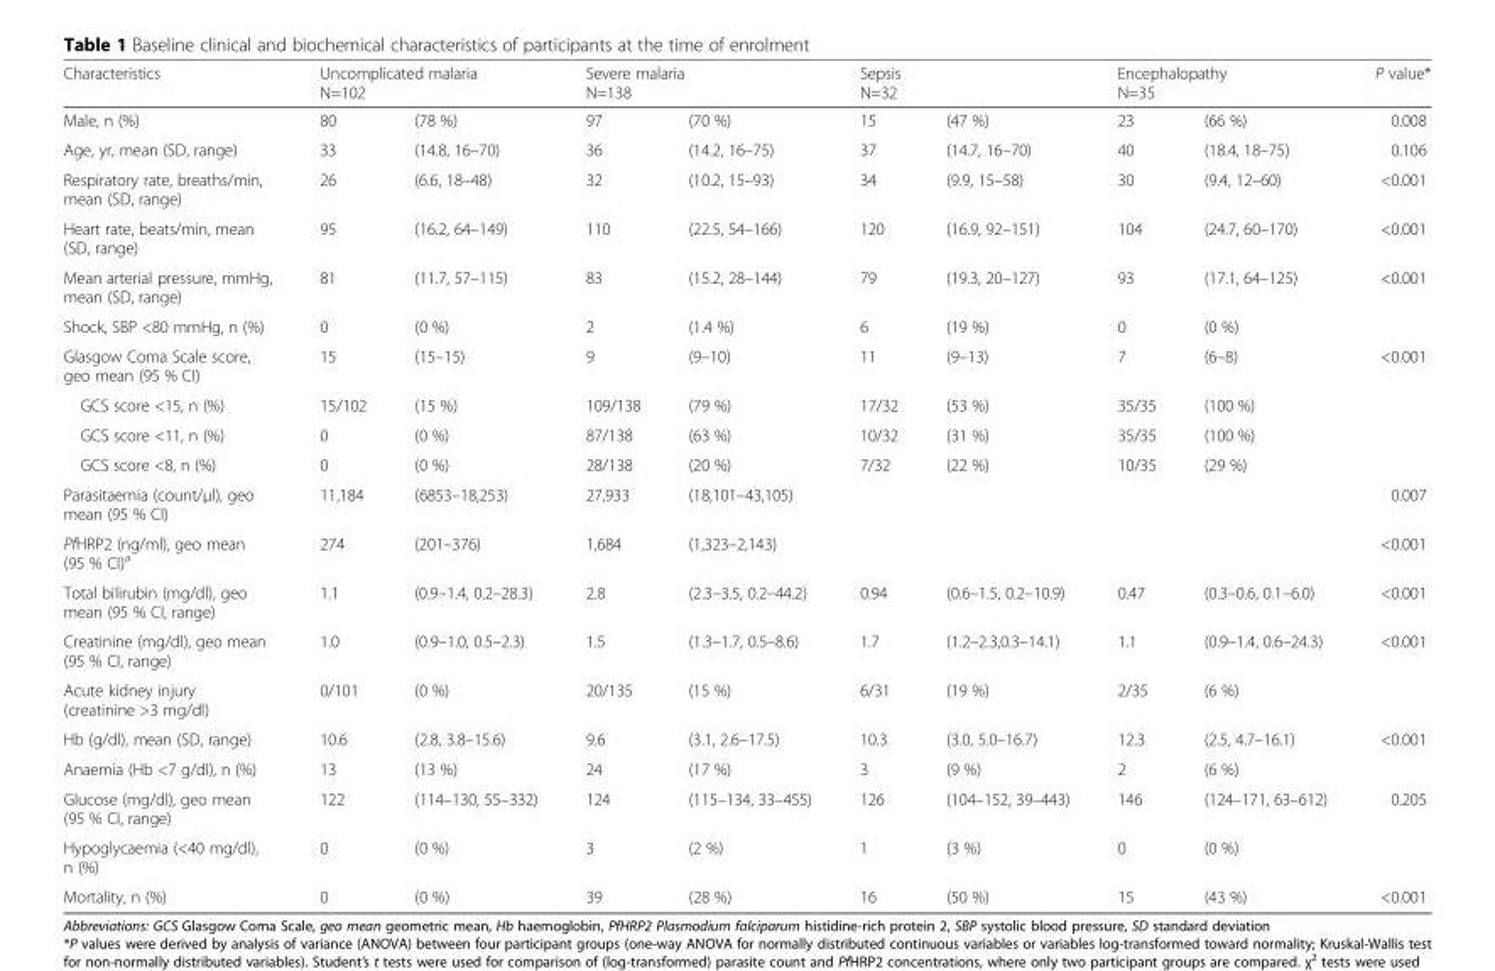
<table><thead><tr><td rowspan="2">Characteristics Male, n (%)</td><td colspan="2">Uncomplicated malaria N=102</td><td colspan="2">Severe malaria N=138</td><td colspan="2">Sepsis N=32</td><td colspan="2">Encephalopathy N=35</td><td rowspan="2">P value* 0.008</td></tr><tr><td>80</td><td>(78 %)</td><td>97</td><td>(70 %)</td><td>15</td><td>(47 %)</td><td>23</td><td>(66 %)</td></tr></thead><tbody><tr><td>Age, yr, mean (SD, range)</td><td>33</td><td>(14.8, 16–70)</td><td>36</td><td>(14.2, 16–75)</td><td>37</td><td>(14.7, 16–70)</td><td>40</td><td>(18.4, 18–75)</td><td>0.106</td></tr><tr><td>Respiratory rate, breaths/min, mean (SD, range)</td><td>26</td><td>(6.6, 18–48)</td><td>32</td><td>(10.2, 15–93)</td><td>34</td><td>(9.9, 15–58)</td><td>30</td><td>(9.4, 12–60)</td><td>&lt;0.001</td></tr><tr><td>Heart rate, beats/min, mean (SD, range)</td><td>95</td><td>(16.2, 64–149)</td><td>110</td><td>(22.5, 54–166)</td><td>120</td><td>(16.9, 92–151)</td><td>104</td><td>(24.7, 60–170)</td><td>&lt;0.001</td></tr><tr><td>Mean arterial pressure, mmHg, mean (SD, range)</td><td>81</td><td>(11.7, 57–115)</td><td>83</td><td>(15.2, 28–144)</td><td>79</td><td>(19.3, 20–127)</td><td>93</td><td>(17.1, 64–125)</td><td>&lt;0.001</td></tr><tr><td>Shock, SBP &lt;80 mmHg, n (%)</td><td>0</td><td>(0 %)</td><td>2</td><td>(1.4 %)</td><td>6</td><td>(19 %)</td><td>0</td><td>(0 %)</td><td></td></tr><tr><td>Glasgow Coma Scale score, geo mean (95 % CI)</td><td>15</td><td>(15–15)</td><td>9</td><td>(9–10)</td><td>11</td><td>(9–13)</td><td>7</td><td>(6–8)</td><td>&lt;0.001</td></tr><tr><td>GCS score &lt;15, n (%)</td><td>15/102</td><td>(15 %)</td><td>109/138</td><td>(79 %)</td><td>17/32</td><td>(53 %)</td><td>35/35</td><td>(100 %)</td><td></td></tr><tr><td>GCS score &lt;11, n (%)</td><td>0</td><td>(0 %)</td><td>87/138</td><td>(63 %)</td><td>10/32</td><td>(31 %)</td><td>35/35</td><td>(100 %)</td><td></td></tr><tr><td>GCS score &lt;8, n (%)</td><td>0</td><td>(0 %)</td><td>28/138</td><td>(20 %)</td><td>7/32</td><td>(22 %)</td><td>10/35</td><td>(29 %)</td><td></td></tr><tr><td>Parasitaemia (count/μl), geo mean (95 % CI)</td><td>11,184</td><td>(6853–18,253)</td><td>27,933</td><td>(18,101–43,105)</td><td></td><td></td><td></td><td></td><td>0.007</td></tr><tr><td>PfHRP2 (ng/ml), geo mean (95 % CI)<sup>a</sup></td><td>274</td><td>(201–376)</td><td>1,684</td><td>(1,323–2,143)</td><td></td><td></td><td></td><td></td><td>&lt;0.001</td></tr><tr><td>Total bilirubin (mg/dl), geo mean (95 % CI, range)</td><td>1.1</td><td>(0.9–1.4, 0.2–28.3)</td><td>2.8</td><td>(2.3–3.5, 0.2–44.2)</td><td>0.94</td><td>(0.6–1.5, 0.2–10.9)</td><td>0.47</td><td>(0.3–0.6, 0.1–6.0)</td><td>&lt;0.001</td></tr><tr><td>Creatinine (mg/dl), geo mean (95 % CI, range)</td><td>1.0</td><td>(0.9–1.0, 0.5–2.3)</td><td>1.5</td><td>(1.3–1.7, 0.5–8.6)</td><td>1.7</td><td>(1.2–2.3,0.3–14.1)</td><td>1.1</td><td>(0.9–1.4, 0.6–24.3)</td><td>&lt;0.001</td></tr><tr><td>Acute kidney injury (creatinine &gt;3 mg/dl)</td><td>0/101</td><td>(0 %)</td><td>20/135</td><td>(15 %)</td><td>6/31</td><td>(19 %)</td><td>2/35</td><td>(6 %)</td><td></td></tr><tr><td>Hb (g/dl), mean (SD, range)</td><td>10.6</td><td>(2.8, 3.8–15.6)</td><td>9.6</td><td>(3.1, 2.6–17.5)</td><td>10.3</td><td>(3.0, 5.0–16.7)</td><td>12.3</td><td>(2.5, 4.7–16.1)</td><td>&lt;0.001</td></tr><tr><td>Anaemia (Hb &lt;7 g/dl), n (%)</td><td>13</td><td>(13 %)</td><td>24</td><td>(17 %)</td><td>3</td><td>(9 %)</td><td>2</td><td>(6 %)</td><td></td></tr><tr><td>Glucose (mg/dl), geo mean (95 % CI, range)</td><td>122</td><td>(114–130, 55–332)</td><td>124</td><td>(115–134, 33–455)</td><td>126</td><td>(104–152, 39–443)</td><td>146</td><td>(124–171, 63–612)</td><td>0.205</td></tr><tr><td>Hypoglycaemia (&lt;40 mg/dl), n (%)</td><td>0</td><td>(0 %)</td><td>3</td><td>(2 %)</td><td>1</td><td>(3 %)</td><td>0</td><td>(0 %)</td><td></td></tr><tr><td>Mortality, n (%)</td><td>0</td><td>(0 %)</td><td>39</td><td>(28 %)</td><td>16</td><td>(50 %)</td><td>15</td><td>(43 %)</td><td>&lt;0.001</td></tr></tbody></table>